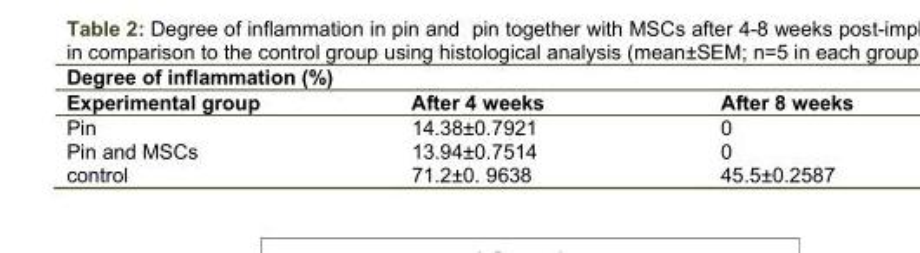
<table><thead><tr><td colspan="3">Degree of inflammation (%)</td></tr><tr><td>Experimental group</td><td>After 4 weeks</td><td>After 8 weeks</td></tr></thead><tbody><tr><td>Pin</td><td>14.38±0.7921</td><td>0</td></tr><tr><td>Pin and MSCs</td><td>13.94±0.7514</td><td>0</td></tr><tr><td>control</td><td>71.2±0. 9638</td><td>45.5±0.2587</td></tr></tbody></table>